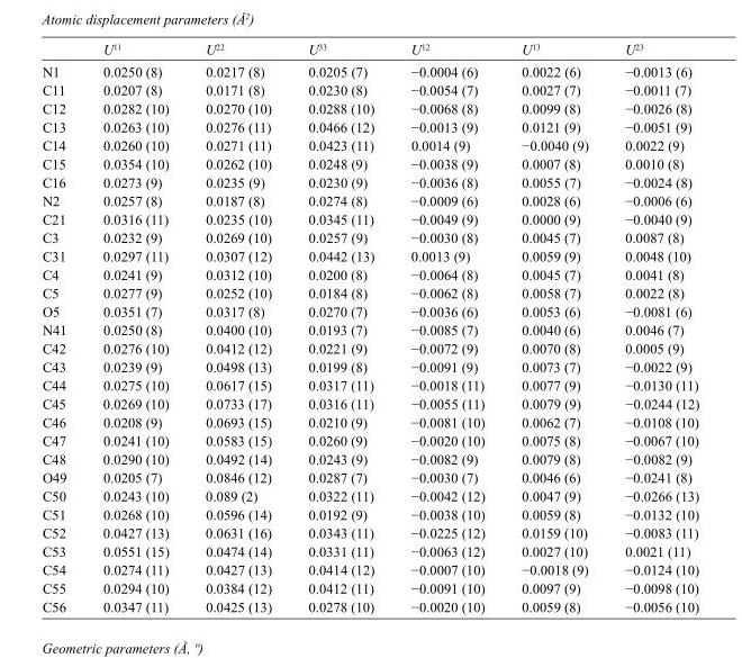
<table><thead><tr><td></td><td>U<sup>11</sup></td><td>U<sup>22</sup></td><td>U<sup>33</sup></td><td>U<sup>12</sup></td><td>U<sup>13</sup></td><td>U<sup>23</sup></td></tr></thead><tbody><tr><td>N1</td><td>0.0250 (8)</td><td>0.0217 (8)</td><td>0.0205 (7)</td><td>−0.0004 (6)</td><td>0.0022 (6)</td><td>−0.0013 (6)</td></tr><tr><td>C11</td><td>0.0207 (8)</td><td>0.0171 (8)</td><td>0.0230 (8)</td><td>−0.0054 (7)</td><td>0.0027 (7)</td><td>−0.0011 (7)</td></tr><tr><td>C12</td><td>0.0282 (10)</td><td>0.0270 (10)</td><td>0.0288 (10)</td><td>−0.0068 (8)</td><td>0.0099 (8)</td><td>−0.0026 (8)</td></tr><tr><td>C13</td><td>0.0263 (10)</td><td>0.0276 (11)</td><td>0.0466 (12)</td><td>−0.0013 (9)</td><td>0.0121 (9)</td><td>−0.0051 (9)</td></tr><tr><td>C14</td><td>0.0260 (10)</td><td>0.0271 (11)</td><td>0.0423 (11)</td><td>0.0014 (9)</td><td>−0.0040 (9)</td><td>0.0022 (9)</td></tr><tr><td>C15</td><td>0.0354 (10)</td><td>0.0262 (10)</td><td>0.0248 (9)</td><td>−0.0038 (9)</td><td>0.0007 (8)</td><td>0.0010 (8)</td></tr><tr><td>C16</td><td>0.0273 (9)</td><td>0.0235 (9)</td><td>0.0230 (9)</td><td>−0.0036 (8)</td><td>0.0055 (7)</td><td>−0.0024 (8)</td></tr><tr><td>N2</td><td>0.0257 (8)</td><td>0.0187 (8)</td><td>0.0274 (8)</td><td>−0.0009 (6)</td><td>0.0028 (6)</td><td>−0.0006 (6)</td></tr><tr><td>C21</td><td>0.0316 (11)</td><td>0.0235 (10)</td><td>0.0345 (11)</td><td>−0.0049 (9)</td><td>0.0000 (9)</td><td>−0.0040 (9)</td></tr><tr><td>C3</td><td>0.0232 (9)</td><td>0.0269 (10)</td><td>0.0257 (9)</td><td>−0.0030 (8)</td><td>0.0045 (7)</td><td>0.0087 (8)</td></tr><tr><td>C31</td><td>0.0297 (11)</td><td>0.0307 (12)</td><td>0.0442 (13)</td><td>0.0013 (9)</td><td>0.0059 (9)</td><td>0.0048 (10)</td></tr><tr><td>C4</td><td>0.0241 (9)</td><td>0.0312 (10)</td><td>0.0200 (8)</td><td>−0.0064 (8)</td><td>0.0045 (7)</td><td>0.0041 (8)</td></tr><tr><td>C5</td><td>0.0277 (9)</td><td>0.0252 (10)</td><td>0.0184 (8)</td><td>−0.0062 (8)</td><td>0.0058 (7)</td><td>0.0022 (8)</td></tr><tr><td>O5</td><td>0.0351 (7)</td><td>0.0317 (8)</td><td>0.0270 (7)</td><td>−0.0036 (6)</td><td>0.0053 (6)</td><td>−0.0081 (6)</td></tr><tr><td>N41</td><td>0.0250 (8)</td><td>0.0400 (10)</td><td>0.0193 (7)</td><td>−0.0085 (7)</td><td>0.0040 (6)</td><td>0.0046 (7)</td></tr><tr><td>C42</td><td>0.0276 (10)</td><td>0.0412 (12)</td><td>0.0221 (9)</td><td>−0.0072 (9)</td><td>0.0070 (8)</td><td>0.0005 (9)</td></tr><tr><td>C43</td><td>0.0239 (9)</td><td>0.0498 (13)</td><td>0.0199 (8)</td><td>−0.0091 (9)</td><td>0.0073 (7)</td><td>−0.0022 (9)</td></tr><tr><td>C44</td><td>0.0275 (10)</td><td>0.0617 (15)</td><td>0.0317 (11)</td><td>−0.0018 (11)</td><td>0.0077 (9)</td><td>−0.0130 (11)</td></tr><tr><td>C45</td><td>0.0269 (10)</td><td>0.0733 (17)</td><td>0.0316 (11)</td><td>−0.0055 (11)</td><td>0.0079 (9)</td><td>−0.0244 (12)</td></tr><tr><td>C46</td><td>0.0208 (9)</td><td>0.0693 (15)</td><td>0.0210 (9)</td><td>−0.0081 (10)</td><td>0.0062 (7)</td><td>−0.0108 (10)</td></tr><tr><td>C47</td><td>0.0241 (10)</td><td>0.0583 (15)</td><td>0.0260 (9)</td><td>−0.0020 (10)</td><td>0.0075 (8)</td><td>−0.0067 (10)</td></tr><tr><td>C48</td><td>0.0290 (10)</td><td>0.0492 (14)</td><td>0.0243 (9)</td><td>−0.0082 (9)</td><td>0.0079 (8)</td><td>−0.0082 (9)</td></tr><tr><td>O49</td><td>0.0205 (7)</td><td>0.0846 (12)</td><td>0.0287 (7)</td><td>−0.0030 (7)</td><td>0.0046 (6)</td><td>−0.0241 (8)</td></tr><tr><td>C50</td><td>0.0243 (10)</td><td>0.089 (2)</td><td>0.0322 (11)</td><td>−0.0042 (12)</td><td>0.0047 (9)</td><td>−0.0266 (13)</td></tr><tr><td>C51</td><td>0.0268 (10)</td><td>0.0596 (14)</td><td>0.0192 (9)</td><td>−0.0038 (10)</td><td>0.0059 (8)</td><td>−0.0132 (10)</td></tr><tr><td>C52</td><td>0.0427 (13)</td><td>0.0631 (16)</td><td>0.0343 (11)</td><td>−0.0225 (12)</td><td>0.0159 (10)</td><td>−0.0083 (11)</td></tr><tr><td>C53</td><td>0.0551 (15)</td><td>0.0474 (14)</td><td>0.0331 (11)</td><td>−0.0063 (12)</td><td>0.0027 (10)</td><td>0.0021 (11)</td></tr><tr><td>C54</td><td>0.0274 (11)</td><td>0.0427 (13)</td><td>0.0414 (12)</td><td>−0.0007 (10)</td><td>−0.0018 (9)</td><td>−0.0124 (10)</td></tr><tr><td>C55</td><td>0.0294 (10)</td><td>0.0384 (12)</td><td>0.0412 (11)</td><td>−0.0091 (10)</td><td>0.0097 (9)</td><td>−0.0098 (10)</td></tr><tr><td>C56</td><td>0.0347 (11)</td><td>0.0425 (13)</td><td>0.0278 (10)</td><td>−0.0020 (10)</td><td>0.0059 (8)</td><td>−0.0056 (10)</td></tr></tbody></table>